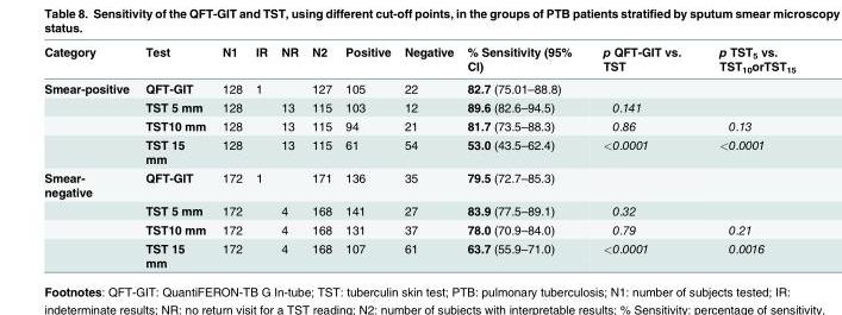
<table><thead><tr><td>Category</td><td>Test</td><td>N1</td><td>IR</td><td>NR</td><td>N2</td><td>Positive</td><td>Negative</td><td>% Sensitivity (95% CI)</td><td>p QFT-GIT vs. TST</td><td>p TST<sub>5</sub> vs. TST<sub>10</sub>orTST<sub>15</sub></td></tr></thead><tbody><tr><td rowspan="4">Smear-positive</td><td>QFT-GIT</td><td>128</td><td>1</td><td></td><td>127</td><td>105</td><td>22</td><td>82.7 (75.01–88.8)</td><td></td><td></td></tr><tr><td>TST 5 mm</td><td>128</td><td></td><td>13</td><td>115</td><td>103</td><td>12</td><td>89.6 (82.6–94.5)</td><td>0.141</td><td></td></tr><tr><td>TST10 mm</td><td>128</td><td></td><td>13</td><td>115</td><td>94</td><td>21</td><td>81.7 (73.5–88.3)</td><td>0.86</td><td>0.13</td></tr><tr><td>TST 15 mm</td><td>128</td><td></td><td>13</td><td>115</td><td>61</td><td>54</td><td>53.0 (43.5–62.4)</td><td>&lt;0.0001</td><td>&lt;0.0001</td></tr><tr><td rowspan="4">Smear- negative</td><td>QFT-GIT</td><td>172</td><td>1</td><td></td><td>171</td><td>136</td><td>35</td><td>79.5 (72.7–85.3)</td><td></td><td></td></tr><tr><td>TST 5 mm</td><td>172</td><td></td><td>4</td><td>168</td><td>141</td><td>27</td><td>83.9 (77.5–89.1)</td><td>0.32</td><td></td></tr><tr><td>TST10 mm</td><td>172</td><td></td><td>4</td><td>168</td><td>131</td><td>37</td><td>78.0 (70.9–84.0)</td><td>0.79</td><td>0.21</td></tr><tr><td>TST 15 mm</td><td>172</td><td></td><td>4</td><td>168</td><td>107</td><td>61</td><td>63.7 (55.9–71.0)</td><td>&lt;0.0001</td><td>0.0016</td></tr></tbody></table>